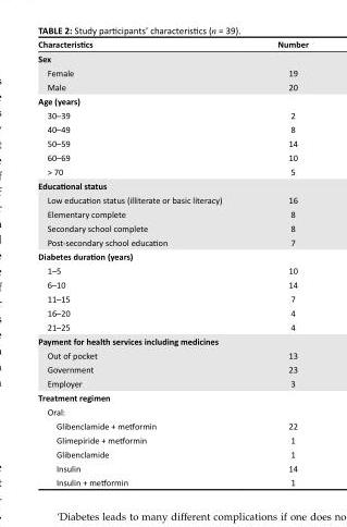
<table><thead><tr><td>Characteristics</td><td>Number</td></tr></thead><tbody><tr><td colspan="2">Sex</td></tr><tr><td>Female</td><td>19</td></tr><tr><td>Male</td><td>20</td></tr><tr><td colspan="2">Age (years)</td></tr><tr><td>30–39</td><td>2</td></tr><tr><td>40–49</td><td>8</td></tr><tr><td>50–59</td><td>14</td></tr><tr><td>60–69</td><td>10</td></tr><tr><td>&gt; 70</td><td>5</td></tr><tr><td colspan="2">Educational status</td></tr><tr><td>Low education status (illiterate or basic literacy)</td><td>16</td></tr><tr><td>Elementary complete</td><td>8</td></tr><tr><td>Secondary school complete</td><td>8</td></tr><tr><td>Post-secondary school education</td><td>7</td></tr><tr><td colspan="2">Diabetes duration (years)</td></tr><tr><td>1–5</td><td>10</td></tr><tr><td>6–10</td><td>14</td></tr><tr><td>11–15</td><td>7</td></tr><tr><td>16–20</td><td>4</td></tr><tr><td>21–25</td><td>4</td></tr><tr><td colspan="2">Payment for health services including medicines</td></tr><tr><td>Out of pocket</td><td>13</td></tr><tr><td>Government</td><td>23</td></tr><tr><td>Employer</td><td>3</td></tr><tr><td colspan="2">Treatment regimen</td></tr><tr><td colspan="2">Oral:</td></tr><tr><td>Glibenclamide + metformin</td><td>22</td></tr><tr><td>Glimepiride + metformin</td><td>1</td></tr><tr><td>Glibenclamide</td><td>1</td></tr><tr><td>Insulin</td><td>14</td></tr><tr><td>Insulin + metformin</td><td>1</td></tr></tbody></table>